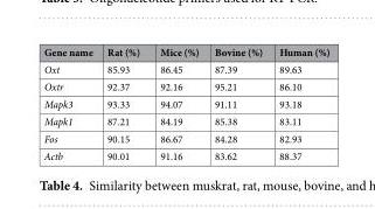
<table><thead><tr><td>Gene name</td><td>Rat (%)</td><td>Mice (%)</td><td>Bovine (%)</td><td>Human (%)</td></tr></thead><tbody><tr><td>Oxt</td><td>85.93</td><td>86.45</td><td>87.39</td><td>89.63</td></tr><tr><td>Oxtr</td><td>92.37</td><td>92.16</td><td>95.21</td><td>86.10</td></tr><tr><td>Mapk3</td><td>93.33</td><td>94.07</td><td>91.11</td><td>93.18</td></tr><tr><td>Mapk1</td><td>87.21</td><td>84.19</td><td>85.38</td><td>83.11</td></tr><tr><td>Fos</td><td>90.15</td><td>86.67</td><td>84.28</td><td>82.93</td></tr><tr><td>Actb</td><td>90.01</td><td>91.16</td><td>83.62</td><td>88.37</td></tr></tbody></table>